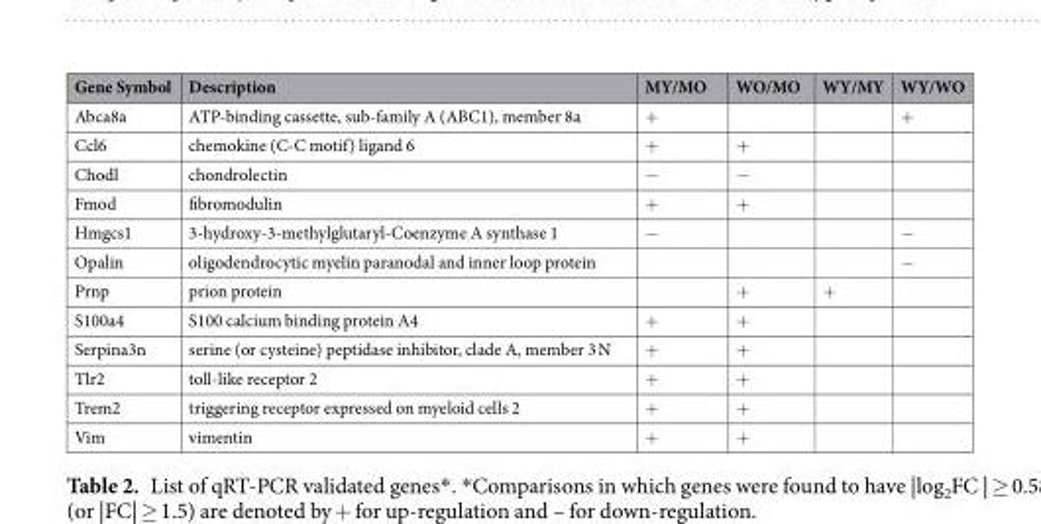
<table><thead><tr><td>Gene Symbol</td><td>Description</td><td>MY/MO</td><td>WO/MO</td><td>WY/MY</td><td>WY/WO</td></tr></thead><tbody><tr><td>Abca8a</td><td>ATP-binding cassette, sub-family A (ABC1), member 8a</td><td>+</td><td></td><td></td><td>+</td></tr><tr><td>Ccl6</td><td>chemokine (C-C motif) ligand 6</td><td>+</td><td>+</td><td></td><td></td></tr><tr><td>Chodl</td><td>chondrolectin</td><td>−</td><td>−</td><td></td><td></td></tr><tr><td>Fmod</td><td>fibromodulin</td><td>+</td><td>+</td><td></td><td></td></tr><tr><td>Hmgcs1</td><td>3-hydroxy-3-methylglutaryl-Coenzyme A synthase 1</td><td>−</td><td></td><td></td><td>−</td></tr><tr><td>Opalin</td><td>oligodendrocytic myelin paranodal and inner loop protein</td><td></td><td></td><td></td><td>−</td></tr><tr><td>Prnp</td><td>prion protein</td><td></td><td>+</td><td>+</td><td></td></tr><tr><td>S100a4</td><td>S100 calcium binding protein A4</td><td>+</td><td>+</td><td></td><td></td></tr><tr><td>Serpina3n</td><td>serine (or cysteine) peptidase inhibitor, clade A, member 3 N</td><td>+</td><td>+</td><td></td><td></td></tr><tr><td>Tlr2</td><td>toll-like receptor 2</td><td>+</td><td>+</td><td></td><td></td></tr><tr><td>Trem2</td><td>triggering receptor expressed on myeloid cells 2</td><td>+</td><td>+</td><td></td><td></td></tr><tr><td>Vim</td><td>vimentin</td><td>+</td><td>+</td><td></td><td></td></tr></tbody></table>